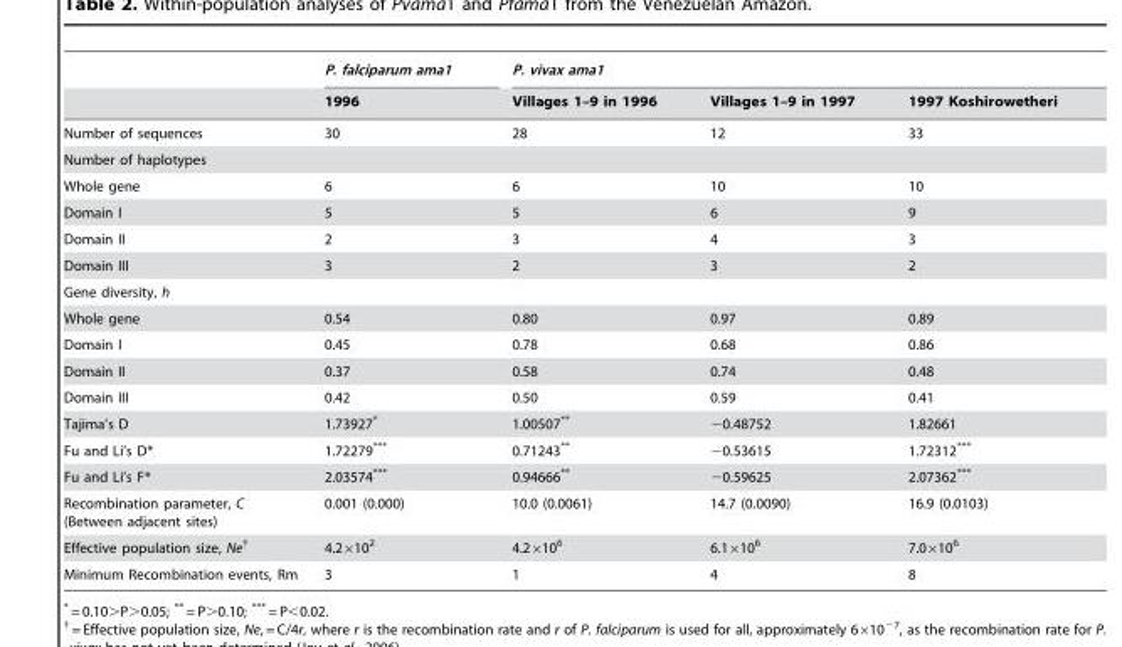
<table><thead><tr><td rowspan="2"></td><td rowspan="2">P. falciparum ama1 1996</td><td colspan="3">P. vivax ama1</td></tr><tr><td>Villages 1–9 in 1996</td><td>Villages 1–9 in 1997</td><td>1997 Koshirowetheri</td></tr></thead><tbody><tr><td>Number of sequences</td><td>30</td><td>28</td><td>12</td><td>33</td></tr><tr><td colspan="5">Number of haplotypes</td></tr><tr><td>Whole gene</td><td>6</td><td>6</td><td>10</td><td>10</td></tr><tr><td>Domain I</td><td>5</td><td>5</td><td>6</td><td>9</td></tr><tr><td>Domain II</td><td>2</td><td>3</td><td>4</td><td>3</td></tr><tr><td>Domain III</td><td>3</td><td>2</td><td>3</td><td>2</td></tr><tr><td colspan="5">Gene diversity, h</td></tr><tr><td>Whole gene</td><td>0.54</td><td>0.80</td><td>0.97</td><td>0.89</td></tr><tr><td>Domain I</td><td>0.45</td><td>0.78</td><td>0.68</td><td>0.86</td></tr><tr><td>Domain II</td><td>0.37</td><td>0.58</td><td>0.74</td><td>0.48</td></tr><tr><td>Domain III</td><td>0.42</td><td>0.50</td><td>0.59</td><td>0.41</td></tr><tr><td>Tajima’s D</td><td>1.73927*</td><td>1.00507**</td><td>−0.48752</td><td>1.82661</td></tr><tr><td>Fu and Li’s D*</td><td>1.72279***</td><td>0.71243**</td><td>−0.53615</td><td>1.72312***</td></tr><tr><td>Fu and Li’s F*</td><td>2.03574***</td><td>0.94666**</td><td>−0.59625</td><td>2.07362***</td></tr><tr><td>Recombination parameter, C (Between adjacent sites)</td><td>0.001 (0.000)</td><td>10.0 (0.0061)</td><td>14.7 (0.0090)</td><td>16.9 (0.0103)</td></tr><tr><td>Effective population size, Ne†</td><td>4.2×10<sup>2</sup></td><td>4.2×10<sup>6</sup></td><td>6.1×10<sup>6</sup></td><td>7.0×10<sup>6</sup></td></tr><tr><td>Minimum Recombination events, Rm</td><td>3</td><td>1</td><td>4</td><td>8</td></tr></tbody></table>